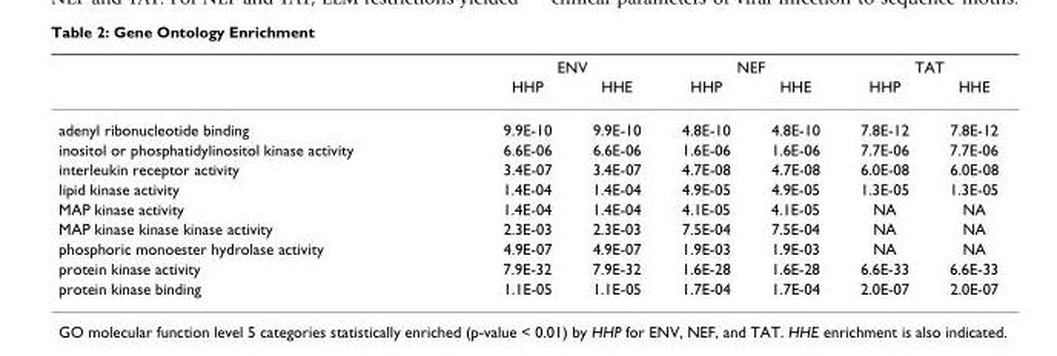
<table><thead><tr><td rowspan="2"></td><td colspan="2">ENV</td><td colspan="2">NEF</td><td colspan="2">TAT</td></tr><tr><td>HHP</td><td>HHE</td><td>HHP</td><td>HHE</td><td>HHP</td><td>HHE</td></tr></thead><tbody><tr><td>adenyl ribonucleotide binding</td><td>9.9E-10</td><td>9.9E-10</td><td>4.8E-10</td><td>4.8E-10</td><td>7.8E-12</td><td>7.8E-12</td></tr><tr><td>inositol or phosphatidylinositol kinase activity</td><td>6.6E-06</td><td>6.6E-06</td><td>1.6E-06</td><td>1.6E-06</td><td>7.7E-06</td><td>7.7E-06</td></tr><tr><td>interleukin receptor activity</td><td>3.4E-07</td><td>3.4E-07</td><td>4.7E-08</td><td>4.7E-08</td><td>6.0E-08</td><td>6.0E-08</td></tr><tr><td>lipid kinase activity</td><td>1.4E-04</td><td>1.4E-04</td><td>4.9E-05</td><td>4.9E-05</td><td>1.3E-05</td><td>1.3E-05</td></tr><tr><td>MAP kinase activity</td><td>1.4E-04</td><td>1.4E-04</td><td>4.1E-05</td><td>4.1E-05</td><td>NA</td><td>NA</td></tr><tr><td>MAP kinase kinase kinase activity</td><td>2.3E-03</td><td>2.3E-03</td><td>7.5E-04</td><td>7.5E-04</td><td>NA</td><td>NA</td></tr><tr><td>phosphoric monoester hydrolase activity</td><td>4.9E-07</td><td>4.9E-07</td><td>1.9E-03</td><td>1.9E-03</td><td>NA</td><td>NA</td></tr><tr><td>protein kinase activity</td><td>7.9E-32</td><td>7.9E-32</td><td>1.6E-28</td><td>1.6E-28</td><td>6.6E-33</td><td>6.6E-33</td></tr><tr><td>protein kinase binding</td><td>1.1E-05</td><td>1.1E-05</td><td>1.7E-04</td><td>1.7E-04</td><td>2.0E-07</td><td>2.0E-07</td></tr></tbody></table>